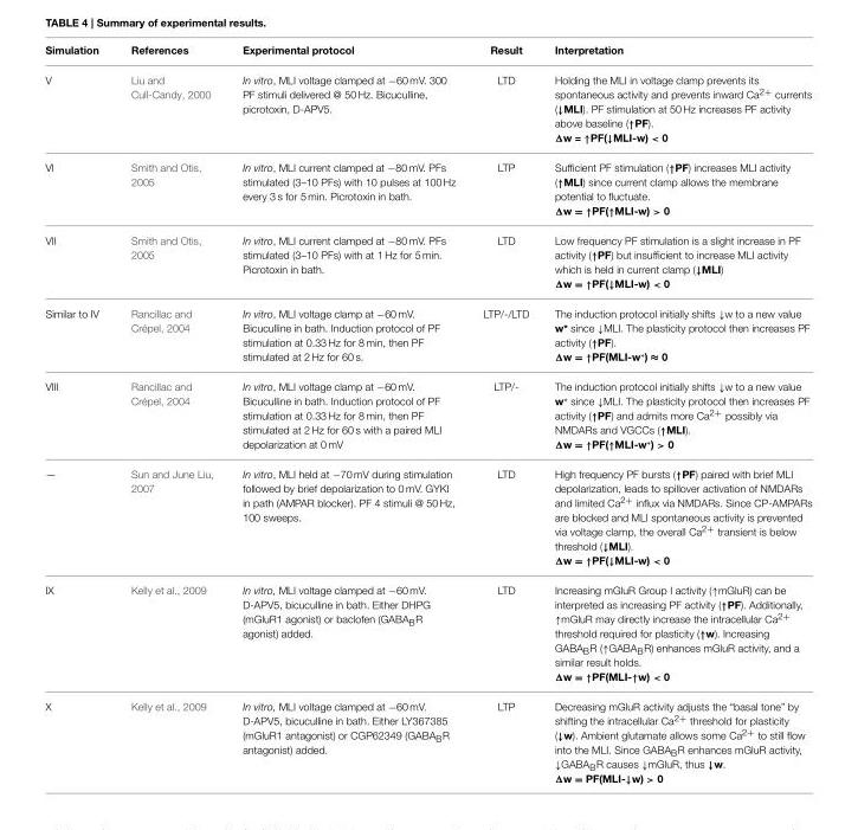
<table><thead><tr><td>Simulation</td><td>References</td><td>Experimental protocol</td><td>Result</td><td>Interpretation</td></tr></thead><tbody><tr><td>V</td><td>Liu and Cull-Candy, 2000</td><td>In vitro, MLI voltage clamped at −60 mV. 300 PF stimuli delivered @ 50 Hz. Bicuculline, picrotoxin, D-APV5.</td><td>LTD</td><td>Holding the MLI in voltage clamp prevents its spontaneous activity and prevents inward Ca<sup>2+</sup> currents (↓MLI). PF stimulation at 50 Hz increases PF activity above baseline (↑PF). Δw = ↑PF(↓MLI-w) &lt; 0</td></tr><tr><td>VI</td><td>Smith and Otis, 2005</td><td>In vitro, MLI current clamped at −80 mV. PFs stimulated (3–10 PFs) with 10 pulses at 100 Hz every 3 s for 5 min. Picrotoxin in bath.</td><td>LTP</td><td>Sufficient PF stimulation (↑PF) increases MLI activity (↑MLI) since current clamp allows the membrane potential to fluctuate. Δw = ↑PF(↑MLI-w) &gt; 0</td></tr><tr><td>VII</td><td>Smith and Otis, 2005</td><td>In vitro, MLI current clamped at −80 mV. PFs stimulated (3–10 PFs) with at 1 Hz for 5 min. Picrotoxin in bath.</td><td>LTD</td><td>Low frequency PF stimulation is a slight increase in PF activity (↑PF) but insufficient to increase MLI activity which is held in current clamp (↓MLI) Δw = ↑PF(↓MLI-w) &lt; 0</td></tr><tr><td>Similar to IV</td><td>Rancillac and Crépel, 2004</td><td>In vitro, MLI voltage clamp at −60 mV. Bicuculline in bath. Induction protocol of PF stimulation at 0.33 Hz for 8 min, then PF stimulated at 2 Hz for 60 s.</td><td>LTP/-/LTD</td><td>The induction protocol initially shifts ↓w to a new value w* since ↓MLI. The plasticity protocol then increases PF activity (↑PF). Δw = ↑PF(MLI-w*) ≈ 0</td></tr><tr><td>VIII</td><td>Rancillac and Crépel, 2004</td><td>In vitro, MLI voltage clamp at −60 mV. Bicuculline in bath. Induction protocol of PF stimulation at 0.33 Hz for 8 min, then PF stimulated at 2 Hz for 60 s with a paired MLI depolarization at 0 mV</td><td>LTP/-</td><td>The induction protocol initially shifts ↓w to a new value w* since ↓MLI. The plasticity protocol then increases PF activity (↑PF) and admits more Ca<sup>2+</sup> possibly via NMDARs and VGCCs (↑MLI). Δw = ↑PF(↑MLI-w*) &gt; 0</td></tr><tr><td>—</td><td>Sun and June Liu, 2007</td><td>In vitro, MLI held at −70 mV during stimulation followed by brief depolarization to 0 mV. GYKI in path (AMPAR blocker). PF 4 stimuli @ 50 Hz, 100 sweeps.</td><td>LTD</td><td>High frequency PF bursts (↑PF) paired with brief MLI depolarization, leads to spillover activation of NMDARs and limited Ca<sup>2+</sup> influx via NMDARs. Since CP-AMPARs are blocked and MLI spontaneous activity is prevented via voltage clamp, the overall Ca<sup>2+</sup> transient is below threshold (↓MLI). Δw = ↑PF(↓MLI-w) &lt; 0</td></tr><tr><td>IX</td><td>Kelly et al., 2009</td><td>In vitro, MLI voltage clamped at −60 mV. D-APV5, bicuculline in bath. Either DHPG (mGluR1 agonist) or baclofen (GABA<sub>B</sub>R agonist) added.</td><td>LTD</td><td>Increasing mGluR Group I activity (↑mGluR) can be interpreted as increasing PF activity (↑PF). Additionally, ↑mGluR may directly increase the intracellular Ca<sup>2+</sup> threshold required for plasticity (↑w). Increasing GABA<sub>B</sub>R (↑GABA<sub>B</sub>R) enhances mGluR activity, and a similar result holds. Δw = ↑PF(MLI-↑w) &lt; 0</td></tr><tr><td>X</td><td>Kelly et al., 2009</td><td>In vitro, MLI voltage clamped at −60 mV. D-APV5, bicuculline in bath. Either LY367385 (mGluR1 antagonist) or CGP62349 (GABA<sub>B</sub>R antagonist) added.</td><td>LTP</td><td>Decreasing mGluR activity adjusts the “basal tone” by shifting the intracellular Ca<sup>2+</sup> threshold for plasticity (↓w). Ambient glutamate allows some Ca<sup>2+</sup> to still flow into the MLI. Since GABA<sub>B</sub>R enhances mGluR activity, ↓GABA<sub>B</sub>R causes ↓mGluR, thus ↓w. Δw = PF(MLI-↓w) &gt; 0</td></tr></tbody></table>